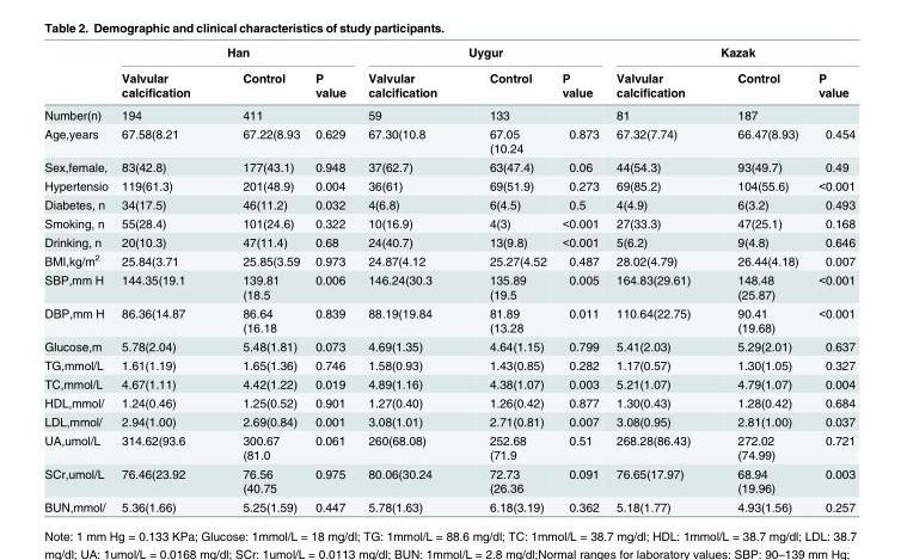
<table><thead><tr><td rowspan="2"></td><td colspan="3">Han</td><td colspan="3">Uygur</td><td colspan="3">Kazak</td></tr><tr><td>Valvular calcification</td><td>Control</td><td>P value</td><td>Valvular calcification</td><td>Control</td><td>P value</td><td>Valvular calcification</td><td>Control</td><td>P value</td></tr></thead><tbody><tr><td>Number(n)</td><td>194</td><td>411</td><td></td><td>59</td><td>133</td><td></td><td>81</td><td>187</td><td></td></tr><tr><td>Age,years</td><td>67.58(8.21</td><td>67.22(8.93</td><td>0.629</td><td>67.30(10.8</td><td>67.05 (10.24</td><td>0.873</td><td>67.32(7.74)</td><td>66.47(8.93)</td><td>0.454</td></tr><tr><td>Sex,female,</td><td>83(42.8)</td><td>177(43.1)</td><td>0.948</td><td>37(62.7)</td><td>63(47.4)</td><td>0.06</td><td>44(54.3)</td><td>93(49.7)</td><td>0.49</td></tr><tr><td>Hypertensio</td><td>119(61.3)</td><td>201(48.9)</td><td>0.004</td><td>36(61)</td><td>69(51.9)</td><td>0.273</td><td>69(85.2)</td><td>104(55.6)</td><td>&lt;0.001</td></tr><tr><td>Diabetes, n</td><td>34(17.5)</td><td>46(11.2)</td><td>0.032</td><td>4(6.8)</td><td>6(4.5)</td><td>0.5</td><td>4(4.9)</td><td>6(3.2)</td><td>0.493</td></tr><tr><td>Smoking, n</td><td>55(28.4)</td><td>101(24.6)</td><td>0.322</td><td>10(16.9)</td><td>4(3)</td><td>&lt;0.001</td><td>27(33.3)</td><td>47(25.1)</td><td>0.168</td></tr><tr><td>Drinking, n</td><td>20(10.3)</td><td>47(11.4)</td><td>0.68</td><td>24(40.7)</td><td>13(9.8)</td><td>&lt;0.001</td><td>5(6.2)</td><td>9(4.8)</td><td>0.646</td></tr><tr><td>BMI,kg/m<sup>2</sup></td><td>25.84(3.71</td><td>25.85(3.59</td><td>0.973</td><td>24.87(4.12</td><td>25.27(4.52</td><td>0.487</td><td>28.02(4.79)</td><td>26.44(4.18)</td><td>0.007</td></tr><tr><td>SBP,mm H</td><td>144.35(19.1</td><td>139.81 (18.5</td><td>0.006</td><td>146.24(30.3</td><td>135.89 (19.5</td><td>0.005</td><td>164.83(29.61)</td><td>148.48 (25.87)</td><td>&lt;0.001</td></tr><tr><td>DBP,mm H</td><td>86.36(14.87</td><td>86.64 (16.18</td><td>0.839</td><td>88.19(19.84</td><td>81.89 (13.28</td><td>0.011</td><td>110.64(22.75)</td><td>90.41 (19.68)</td><td>&lt;0.001</td></tr><tr><td>Glucose,m</td><td>5.78(2.04)</td><td>5.48(1.81)</td><td>0.073</td><td>4.69(1.35)</td><td>4.64(1.15)</td><td>0.799</td><td>5.41(2.03)</td><td>5.29(2.01)</td><td>0.637</td></tr><tr><td>TG,mmol/L</td><td>1.61(1.19)</td><td>1.65(1.36)</td><td>0.746</td><td>1.58(0.93)</td><td>1.43(0.85)</td><td>0.282</td><td>1.17(0.57)</td><td>1.30(1.05)</td><td>0.327</td></tr><tr><td>TC,mmol/L</td><td>4.67(1.11)</td><td>4.42(1.22)</td><td>0.019</td><td>4.89(1.16)</td><td>4.38(1.07)</td><td>0.003</td><td>5.21(1.07)</td><td>4.79(1.07)</td><td>0.004</td></tr><tr><td>HDL,mmol/</td><td>1.24(0.46)</td><td>1.25(0.52)</td><td>0.901</td><td>1.27(0.40)</td><td>1.26(0.42)</td><td>0.877</td><td>1.30(0.43)</td><td>1.28(0.42)</td><td>0.684</td></tr><tr><td>LDL,mmol/</td><td>2.94(1.00)</td><td>2.69(0.84)</td><td>0.001</td><td>3.08(1.01)</td><td>2.71(0.81)</td><td>0.007</td><td>3.08(0.95)</td><td>2.81(1.00)</td><td>0.037</td></tr><tr><td>UA,umol/L</td><td>314.62(93.6</td><td>300.67 (81.0</td><td>0.061</td><td>260(68.08)</td><td>252.68 (71.9</td><td>0.51</td><td>268.28(86.43)</td><td>272.02 (74.99)</td><td>0.721</td></tr><tr><td>SCr,umol/L</td><td>76.46(23.92</td><td>76.56 (40.75</td><td>0.975</td><td>80.06(30.24</td><td>72.73 (26.36</td><td>0.091</td><td>76.65(17.97)</td><td>68.94 (19.96)</td><td>0.003</td></tr><tr><td>BUN,mmol/</td><td>5.36(1.66)</td><td>5.25(1.59)</td><td>0.447</td><td>5.78(1.63)</td><td>6.18(3.19)</td><td>0.362</td><td>5.18(1.77)</td><td>4.93(1.56)</td><td>0.257</td></tr></tbody></table>